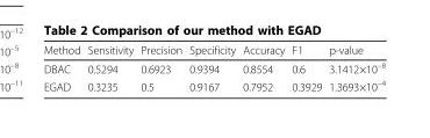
<table><thead><tr><td>Method</td><td>Sensitivity</td><td>Precision</td><td>Specificity</td><td>Accuracy</td><td>F1</td><td>p-value</td></tr></thead><tbody><tr><td>DBAC</td><td>0.5294</td><td>0.6923</td><td>0.9394</td><td>0.8554</td><td>0.6</td><td>3.1412×10<sup>–8</sup></td></tr><tr><td>EGAD</td><td>0.3235</td><td>0.5</td><td>0.9167</td><td>0.7952</td><td>0.3929</td><td>1.3693×10<sup>–4</sup></td></tr></tbody></table>